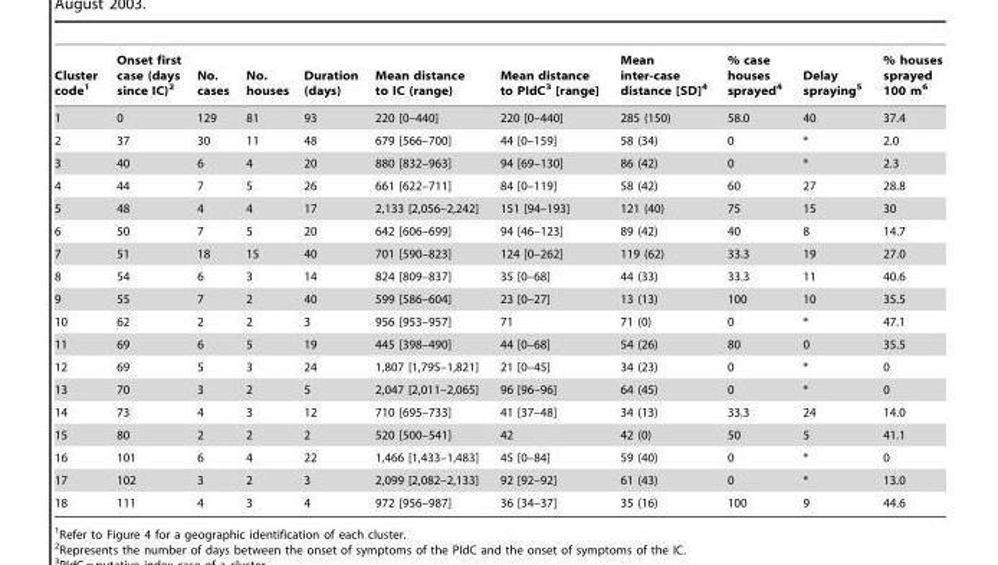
<table><thead><tr><td>Cluster code<sup>1</sup></td><td>Onset first case (days since IC)<sup>2</sup></td><td>No. cases</td><td>No. houses</td><td>Duration (days)</td><td>Mean distance to IC (range)</td><td>Mean distance to PIdC3 [range]</td><td>Mean inter-case distance [SD]<sup>4</sup></td><td>% case houses sprayed<sup>4</sup></td><td>Delay spraying<sup>5</sup></td><td>% houses sprayed 100 m<sup>6</sup></td></tr></thead><tbody><tr><td>1</td><td>0</td><td>129</td><td>81</td><td>93</td><td>220 [0–440]</td><td>220 [0–440]</td><td>285 (150)</td><td>58.0</td><td>40</td><td>37.4</td></tr><tr><td>2</td><td>37</td><td>30</td><td>11</td><td>48</td><td>679 [566–700]</td><td>44 [0–159]</td><td>58 (34)</td><td>0</td><td>*</td><td>2.0</td></tr><tr><td>3</td><td>40</td><td>6</td><td>4</td><td>20</td><td>880 [832–963]</td><td>94 [69–130]</td><td>86 (42)</td><td>0</td><td>*</td><td>2.3</td></tr><tr><td>4</td><td>44</td><td>7</td><td>5</td><td>26</td><td>661 [622–711]</td><td>84 [0–119]</td><td>58 (42)</td><td>60</td><td>27</td><td>28.8</td></tr><tr><td>5</td><td>48</td><td>4</td><td>4</td><td>17</td><td>2,133 [2,056–2,242]</td><td>151 [94–193]</td><td>121 (40)</td><td>75</td><td>15</td><td>30</td></tr><tr><td>6</td><td>50</td><td>7</td><td>5</td><td>20</td><td>642 [606–699]</td><td>94 [46–123]</td><td>89 (42)</td><td>40</td><td>8</td><td>14.7</td></tr><tr><td>7</td><td>51</td><td>18</td><td>15</td><td>40</td><td>701 [590–823]</td><td>124 [0–262]</td><td>119 (62)</td><td>33.3</td><td>19</td><td>27.0</td></tr><tr><td>8</td><td>54</td><td>6</td><td>3</td><td>14</td><td>824 [809–837]</td><td>35 [0–68]</td><td>44 (33)</td><td>33.3</td><td>11</td><td>40.6</td></tr><tr><td>9</td><td>55</td><td>7</td><td>2</td><td>40</td><td>599 [586–604]</td><td>23 [0–27]</td><td>13 (13)</td><td>100</td><td>10</td><td>35.5</td></tr><tr><td>10</td><td>62</td><td>2</td><td>2</td><td>3</td><td>956 [953–957]</td><td>71</td><td>71 (0)</td><td>0</td><td>*</td><td>47.1</td></tr><tr><td>11</td><td>69</td><td>6</td><td>5</td><td>19</td><td>445 [398–490]</td><td>44 [0–68]</td><td>54 (26)</td><td>80</td><td>0</td><td>35.5</td></tr><tr><td>12</td><td>69</td><td>5</td><td>3</td><td>24</td><td>1,807 [1,795–1,821]</td><td>21 [0–45]</td><td>34 (23)</td><td>0</td><td>*</td><td>0</td></tr><tr><td>13</td><td>70</td><td>3</td><td>2</td><td>5</td><td>2,047 [2,011–2,065]</td><td>96 [96–96]</td><td>64 (45)</td><td>0</td><td>*</td><td>0</td></tr><tr><td>14</td><td>73</td><td>4</td><td>3</td><td>12</td><td>710 [695–733]</td><td>41 [37–48]</td><td>34 (13)</td><td>33.3</td><td>24</td><td>14.0</td></tr><tr><td>15</td><td>80</td><td>2</td><td>2</td><td>2</td><td>520 [500–541]</td><td>42</td><td>42 (0)</td><td>50</td><td>5</td><td>41.1</td></tr><tr><td>16</td><td>101</td><td>6</td><td>4</td><td>22</td><td>1,466 [1,433–1,483]</td><td>45 [0–84]</td><td>59 (40)</td><td>0</td><td>*</td><td>0</td></tr><tr><td>17</td><td>102</td><td>3</td><td>2</td><td>3</td><td>2,099 [2,082–2,133]</td><td>92 [92–92]</td><td>61 (43)</td><td>0</td><td>*</td><td>13.0</td></tr><tr><td>18</td><td>111</td><td>4</td><td>3</td><td>4</td><td>972 [956–987]</td><td>36 [34–37]</td><td>35 (16)</td><td>100</td><td>9</td><td>44.6</td></tr></tbody></table>